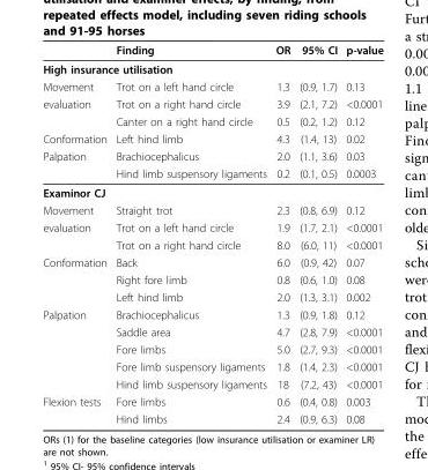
<table><thead><tr><td></td><td>Finding</td><td>OR</td><td>95% CI</td><td>p-value</td></tr></thead><tbody><tr><td colspan="5">High insurance utilisation</td></tr><tr><td>Movement</td><td>Trot on a left hand circle</td><td>1.3</td><td>(0.9, 1.7)</td><td>0.13</td></tr><tr><td rowspan="2">evaluation</td><td>Trot on a right hand circle</td><td>3.9</td><td>(2.1, 7.2)</td><td>&lt;0.0001</td></tr><tr><td>Canter on a right hand circle</td><td>0.5</td><td>(0.2, 1.2)</td><td>0.12</td></tr><tr><td>Conformation</td><td>Left hind limb</td><td>4.3</td><td>(1.4, 13)</td><td>0.02</td></tr><tr><td rowspan="2">Palpation</td><td>Brachiocephalicus</td><td>2.0</td><td>(1.1, 3.6)</td><td>0.03</td></tr><tr><td>Hind limb suspensory ligaments</td><td>0.2</td><td>(0.1, 0.5)</td><td>0.0003</td></tr><tr><td colspan="5">Examinor CJ</td></tr><tr><td>Movement</td><td>Straight trot</td><td>2.3</td><td>(0.8, 6.9)</td><td>0.12</td></tr><tr><td rowspan="2">evaluation</td><td>Trot on a left hand circle</td><td>1.9</td><td>(1.7, 2.1)</td><td>&lt;0.0001</td></tr><tr><td>Trot on a right hand circle</td><td>8.0</td><td>(6.0, 11)</td><td>&lt;0.0001</td></tr><tr><td rowspan="3">Conformation</td><td>Back</td><td>6.0</td><td>(0.9, 42)</td><td>0.07</td></tr><tr><td>Right fore limb</td><td>0.8</td><td>(0.6, 1.0)</td><td>0.08</td></tr><tr><td>Left hind limb</td><td>2.0</td><td>(1.3, 3.1)</td><td>0.002</td></tr><tr><td rowspan="5">Palpation</td><td>Brachiocephalicus</td><td>1.3</td><td>(0.9, 1.8)</td><td>0.12</td></tr><tr><td>Saddle area</td><td>4.7</td><td>(2.8, 7.9)</td><td>&lt;0.0001</td></tr><tr><td>Fore limbs</td><td>5.0</td><td>(2.7, 9.3)</td><td>&lt;0.0001</td></tr><tr><td>Fore limb suspensory ligaments</td><td>1.8</td><td>(1.4, 2.3)</td><td>&lt;0.0001</td></tr><tr><td>Hind limb suspensory ligaments</td><td>18</td><td>(7.2, 43)</td><td>&lt;0.0001</td></tr><tr><td rowspan="2">Flexion tests</td><td>Fore limbs</td><td>0.6</td><td>(0.4, 0.8)</td><td>0.003</td></tr><tr><td>Hind limbs</td><td>2.4</td><td>(0.9, 6.3)</td><td>0.08</td></tr></tbody></table>